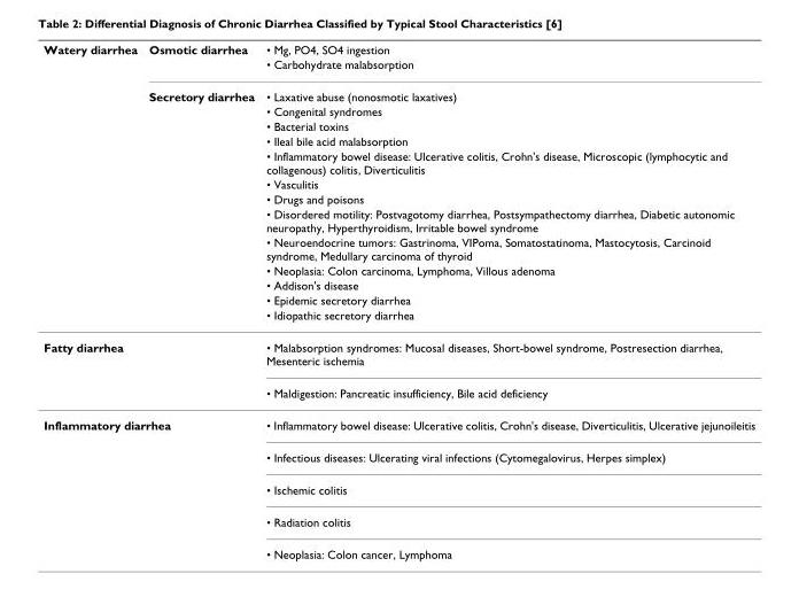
<table><thead><tr><td rowspan="15">Watery diarrhea</td><td rowspan="15">Osmotic diarrhea Secretory diarrhea</td><td rowspan="15">• Mg, PO4, SO4 ingestion • Carbohydrate malabsorption • Laxative abuse (nonosmotic laxatives) • Congenital syndromes • Bacterial toxins • Ileal bile acid malabsorption • Inflammatory bowel disease: Ulcerative colitis, Crohn&#x27;s disease, Microscopic (lymphocytic and collagenous) colitis, Diverticulitis • Vasculitis • Drugs and poisons • Disordered motility: Postvagotomy diarrhea, Postsympathectomy diarrhea, Diabetic autonomic neuropathy, Hyperthyroidism, Irritable bowel syndrome • Neuroendocrine tumors: Gastrinoma, VIPoma, Somatostatinoma, Mastocytosis, Carcinoid syndrome, Medullary carcinoma of thyroid • Neoplasia: Colon carcinoma, Lymphoma, Villous adenoma • Addison&#x27;s disease • Epidemic secretory diarrhea • Idiopathic secretory diarrhea</td></tr><tr></tr><tr></tr><tr></tr><tr></tr><tr></tr><tr></tr><tr></tr><tr></tr><tr></tr><tr></tr><tr></tr><tr></tr><tr></tr><tr></tr></thead><tbody><tr><td colspan="2">Fatty diarrhea</td><td>• Malabsorption syndromes: Mucosal diseases, Short-bowel syndrome, Postresection diarrhea, Mesenteric ischemia</td></tr><tr><td></td><td></td><td>• Maldigestion: Pancreatic insufficiency, Bile acid deficiency</td></tr><tr><td colspan="2">Inflammatory diarrhea</td><td>• Inflammatory bowel disease: Ulcerative colitis, Crohn&#x27;s disease, Diverticulitis, Ulcerative jejunoileitis</td></tr><tr><td></td><td></td><td>• Infectious diseases: Ulcerating viral infections (Cytomegalovirus, Herpes simplex)</td></tr><tr><td></td><td></td><td>• Ischemic colitis</td></tr><tr><td></td><td></td><td>• Radiation colitis</td></tr><tr><td></td><td></td><td>• Neoplasia: Colon cancer, Lymphoma</td></tr></tbody></table>